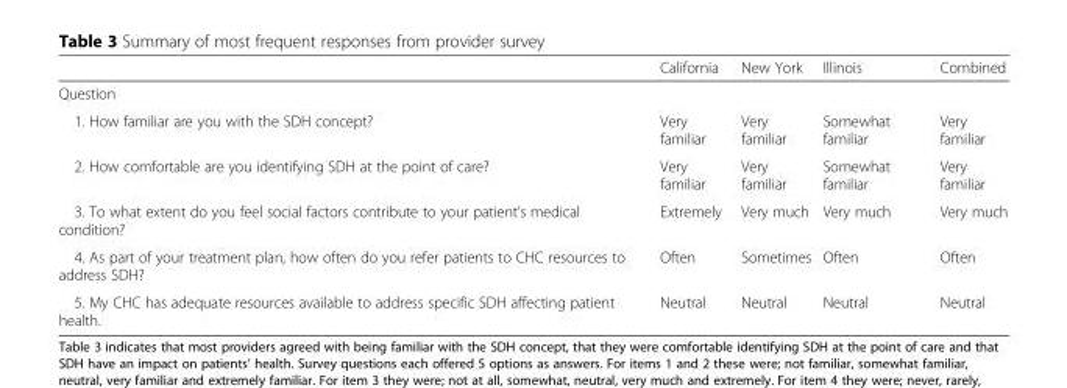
<table><thead><tr><td></td><td>California</td><td>New York</td><td>Illinois</td><td>Combined</td></tr></thead><tbody><tr><td colspan="5">Question</td></tr><tr><td>1. How familiar are you with the SDH concept?</td><td>Very familiar</td><td>Very familiar</td><td>Somewhat familiar</td><td>Very familiar</td></tr><tr><td>2. How comfortable are you identifying SDH at the point of care?</td><td>Very familiar</td><td>Very familiar</td><td>Somewhat familiar</td><td>Very familiar</td></tr><tr><td>3. To what extent do you feel social factors contribute to your patient’s medical condition?</td><td>Extremely</td><td>Very much</td><td>Very much</td><td>Very much</td></tr><tr><td>4. As part of your treatment plan, how often do you refer patients to CHC resources to address SDH?</td><td>Often</td><td>Sometimes</td><td>Often</td><td>Often</td></tr><tr><td>5. My CHC has adequate resources available to address specific SDH affecting patient health.</td><td>Neutral</td><td>Neutral</td><td>Neutral</td><td>Neutral</td></tr></tbody></table>